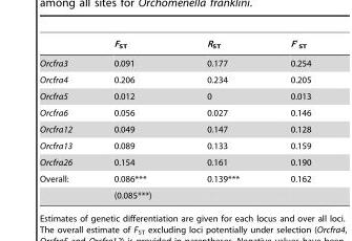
<table><thead><tr><td></td><td>F<sub>ST</sub></td><td>R<sub>ST</sub></td><td>F′<sub>ST</sub></td></tr></thead><tbody><tr><td>Orcfra3</td><td>0.091</td><td>0.177</td><td>0.254</td></tr><tr><td>Orcfra4</td><td>0.206</td><td>0.234</td><td>0.205</td></tr><tr><td>Orcfra5</td><td>0.012</td><td>0</td><td>0.013</td></tr><tr><td>Orcfra6</td><td>0.056</td><td>0.027</td><td>0.146</td></tr><tr><td>Orcfra12</td><td>0.049</td><td>0.147</td><td>0.128</td></tr><tr><td>Orcfra13</td><td>0.089</td><td>0.133</td><td>0.159</td></tr><tr><td>Orcfra26</td><td>0.154</td><td>0.161</td><td>0.190</td></tr><tr><td rowspan="2">Overall:</td><td>0.086***</td><td>0.139***</td><td>0.162</td></tr><tr><td>(0.085***)</td><td></td><td></td></tr></tbody></table>